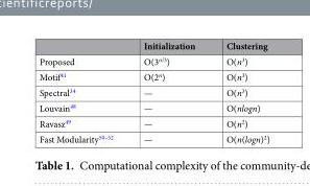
<table><thead><tr><td></td><td>Initialization</td><td>Clustering</td></tr></thead><tbody><tr><td>Proposed</td><td>O(3<sup>n/3</sup>)</td><td>O(n<sup>3</sup>)</td></tr><tr><td>Motif<sup>41</sup></td><td>O(2<sup>n</sup>)</td><td>O(n<sup>3</sup>)</td></tr><tr><td>Spectral<sup>34</sup></td><td>—</td><td>O(n<sup>3</sup>)</td></tr><tr><td>Louvain<sup>48</sup></td><td>—</td><td>O(nlogn)</td></tr><tr><td>Ravasz<sup>49</sup></td><td>—</td><td>O(n<sup>2</sup>)</td></tr><tr><td>Fast Modularity<sup>50–52</sup></td><td>—</td><td>O(n(logn)<sup>2</sup>)</td></tr></tbody></table>